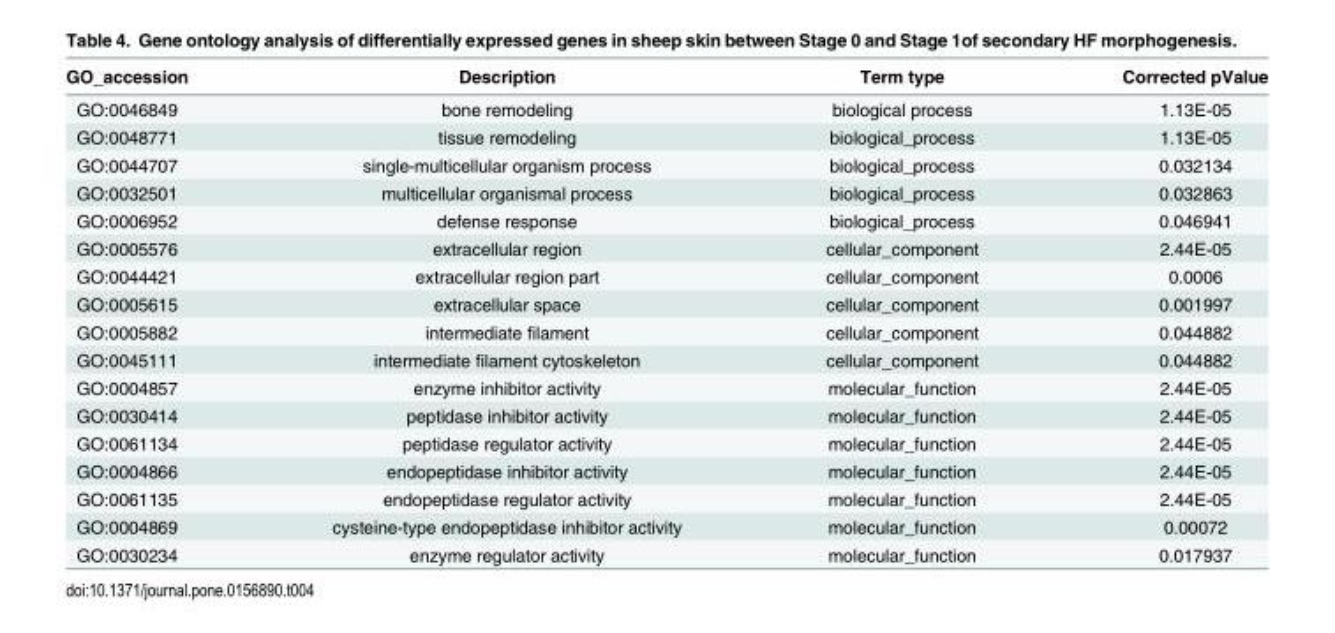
<table><thead><tr><td>GO_accession</td><td>Description</td><td>Term type</td><td>Corrected pValue</td></tr></thead><tbody><tr><td>GO:0046849</td><td>bone remodeling</td><td>biological process</td><td>1.13E-05</td></tr><tr><td>GO:0048771</td><td>tissue remodeling</td><td>biological_process</td><td>1.13E-05</td></tr><tr><td>GO:0044707</td><td>single-multicellular organism process</td><td>biological_process</td><td>0.032134</td></tr><tr><td>GO:0032501</td><td>multicellular organismal process</td><td>biological_process</td><td>0.032863</td></tr><tr><td>GO:0006952</td><td>defense response</td><td>biological_process</td><td>0.046941</td></tr><tr><td>GO:0005576</td><td>extracellular region</td><td>cellular_component</td><td>2.44E-05</td></tr><tr><td>GO:0044421</td><td>extracellular region part</td><td>cellular_component</td><td>0.0006</td></tr><tr><td>GO:0005615</td><td>extracellular space</td><td>cellular_component</td><td>0.001997</td></tr><tr><td>GO:0005882</td><td>intermediate filament</td><td>cellular_component</td><td>0.044882</td></tr><tr><td>GO:0045111</td><td>intermediate filament cytoskeleton</td><td>cellular_component</td><td>0.044882</td></tr><tr><td>GO:0004857</td><td>enzyme inhibitor activity</td><td>molecular_function</td><td>2.44E-05</td></tr><tr><td>GO:0030414</td><td>peptidase inhibitor activity</td><td>molecular_function</td><td>2.44E-05</td></tr><tr><td>GO:0061134</td><td>peptidase regulator activity</td><td>molecular_function</td><td>2.44E-05</td></tr><tr><td>GO:0004866</td><td>endopeptidase inhibitor activity</td><td>molecular_function</td><td>2.44E-05</td></tr><tr><td>GO:0061135</td><td>endopeptidase regulator activity</td><td>molecular_function</td><td>2.44E-05</td></tr><tr><td>GO:0004869</td><td>cysteine-type endopeptidase inhibitor activity</td><td>molecular_function</td><td>0.00072</td></tr><tr><td>GO:0030234</td><td>enzyme regulator activity</td><td>molecular_function</td><td>0.017937</td></tr></tbody></table>